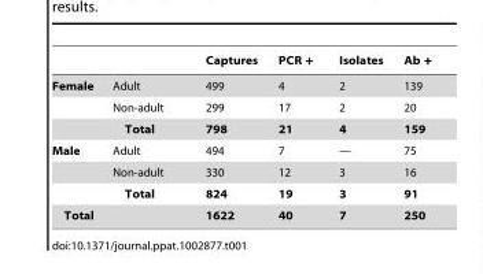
<table><thead><tr><td></td><td></td><td>Captures</td><td>PCR +</td><td>Isolates</td><td>Ab +</td></tr></thead><tbody><tr><td rowspan="3">Female</td><td>Adult</td><td>499</td><td>4</td><td>2</td><td>139</td></tr><tr><td>Non-adult</td><td>299</td><td>17</td><td>2</td><td>20</td></tr><tr><td>Total</td><td>798</td><td>21</td><td>4</td><td>159</td></tr><tr><td rowspan="3">Male</td><td>Adult</td><td>494</td><td>7</td><td>—</td><td>75</td></tr><tr><td>Non-adult</td><td>330</td><td>12</td><td>3</td><td>16</td></tr><tr><td>Total</td><td>824</td><td>19</td><td>3</td><td>91</td></tr><tr><td>Total</td><td></td><td>1622</td><td>40</td><td>7</td><td>250</td></tr></tbody></table>